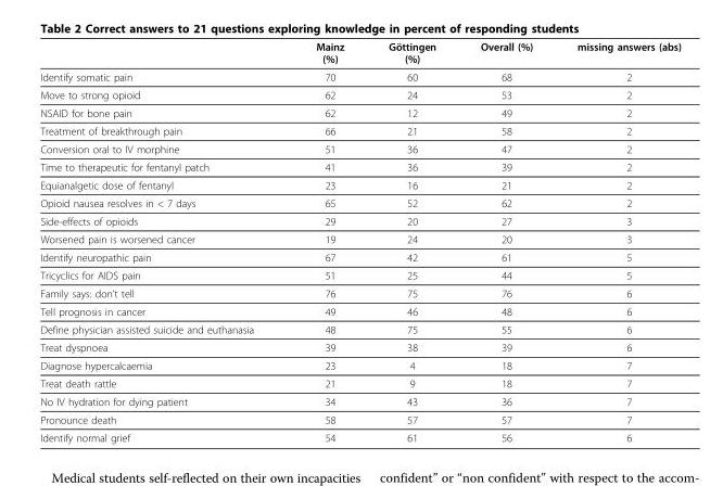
<table><thead><tr><td></td><td>Mainz (%)</td><td>Göttingen (%)</td><td>Overall (%)</td><td>missing answers (abs)</td></tr></thead><tbody><tr><td>Identify somatic pain</td><td>70</td><td>60</td><td>68</td><td>2</td></tr><tr><td>Move to strong opioid</td><td>62</td><td>24</td><td>53</td><td>2</td></tr><tr><td>NSAID for bone pain</td><td>62</td><td>12</td><td>49</td><td>2</td></tr><tr><td>Treatment of breakthrough pain</td><td>66</td><td>21</td><td>58</td><td>2</td></tr><tr><td>Conversion oral to IV morphine</td><td>51</td><td>36</td><td>47</td><td>2</td></tr><tr><td>Time to therapeutic for fentanyl patch</td><td>41</td><td>36</td><td>39</td><td>2</td></tr><tr><td>Equianalgetic dose of fentanyl</td><td>23</td><td>16</td><td>21</td><td>2</td></tr><tr><td>Opioid nausea resolves in &lt; 7 days</td><td>65</td><td>52</td><td>62</td><td>2</td></tr><tr><td>Side-effects of opioids</td><td>29</td><td>20</td><td>27</td><td>3</td></tr><tr><td>Worsened pain is worsened cancer</td><td>19</td><td>24</td><td>20</td><td>3</td></tr><tr><td>Identify neuropathic pain</td><td>67</td><td>42</td><td>61</td><td>5</td></tr><tr><td>Tricyclics for AIDS pain</td><td>51</td><td>25</td><td>44</td><td>5</td></tr><tr><td>Family says: don’t tell</td><td>76</td><td>75</td><td>76</td><td>6</td></tr><tr><td>Tell prognosis in cancer</td><td>49</td><td>46</td><td>48</td><td>6</td></tr><tr><td>Define physician assisted suicide and euthanasia</td><td>48</td><td>75</td><td>55</td><td>6</td></tr><tr><td>Treat dyspnoea</td><td>39</td><td>38</td><td>39</td><td>6</td></tr><tr><td>Diagnose hypercalcaemia</td><td>23</td><td>4</td><td>18</td><td>7</td></tr><tr><td>Treat death rattle</td><td>21</td><td>9</td><td>18</td><td>7</td></tr><tr><td>No IV hydration for dying patient</td><td>34</td><td>43</td><td>36</td><td>7</td></tr><tr><td>Pronounce death</td><td>58</td><td>57</td><td>57</td><td>7</td></tr><tr><td>Identify normal grief</td><td>54</td><td>61</td><td>56</td><td>6</td></tr></tbody></table>